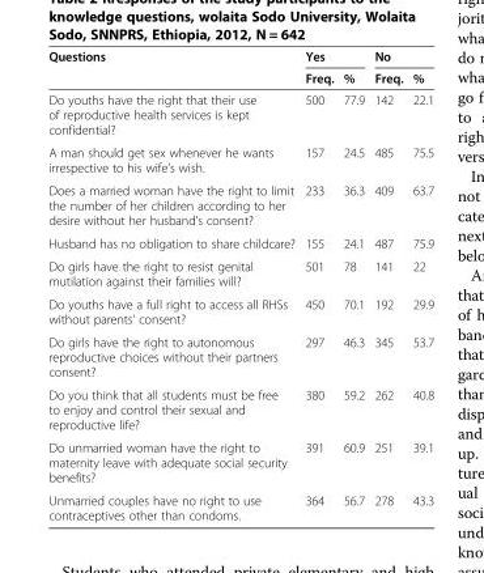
<table><thead><tr><td rowspan="2">Questions</td><td colspan="2">Yes</td><td colspan="2">No</td></tr><tr><td>Freq.</td><td>%</td><td>Freq.</td><td>%</td></tr></thead><tbody><tr><td>Do youths have the right that their use of reproductive health services is kept confidential?</td><td>500</td><td>77.9</td><td>142</td><td>22.1</td></tr><tr><td>A man should get sex whenever he wants irrespective to his wife’s wish.</td><td>157</td><td>24.5</td><td>485</td><td>75.5</td></tr><tr><td>Does a married woman have the right to limit the number of her children according to her desire without her husband’s consent?</td><td>233</td><td>36.3</td><td>409</td><td>63.7</td></tr><tr><td>Husband has no obligation to share childcare?</td><td>155</td><td>24.1</td><td>487</td><td>75.9</td></tr><tr><td>Do girls have the right to resist genital mutilation against their families will?</td><td>501</td><td>78</td><td>141</td><td>22</td></tr><tr><td>Do youths have a full right to access all RHSs without parents’ consent?</td><td>450</td><td>70.1</td><td>192</td><td>29.9</td></tr><tr><td>Do girls have the right to autonomous reproductive choices without their partners consent?</td><td>297</td><td>46.3</td><td>345</td><td>53.7</td></tr><tr><td>Do you think that all students must be free to enjoy and control their sexual and reproductive life?</td><td>380</td><td>59.2</td><td>262</td><td>40.8</td></tr><tr><td>Do unmarried woman have the right to maternity leave with adequate social security benefits?</td><td>391</td><td>60.9</td><td>251</td><td>39.1</td></tr><tr><td>Unmarried couples have no right to use contraceptives other than condoms.</td><td>364</td><td>56.7</td><td>278</td><td>43.3</td></tr></tbody></table>